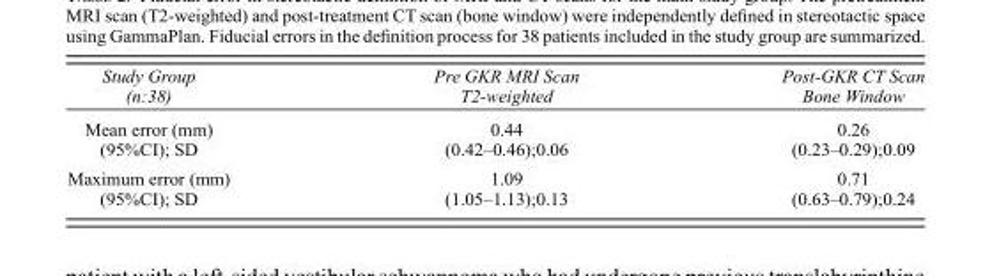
<table><thead><tr><td>Study Group (n:38)</td><td>Pre GKR MRI Scan T2-weighted</td><td>Post-GKR CT Scan Bone Window</td></tr></thead><tbody><tr><td>Mean error (mm)</td><td>0.44</td><td>0.26</td></tr><tr><td>(95%CI); SD</td><td>(0.42–0.46);0.06</td><td>(0.23–0.29);0.09</td></tr><tr><td>Maximum error (mm)</td><td>1.09</td><td>0.71</td></tr><tr><td>(95%CI); SD</td><td>(1.05–1.13);0.13</td><td>(0.63–0.79);0.24</td></tr></tbody></table>